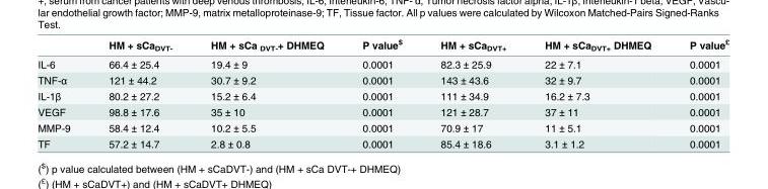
<table><thead><tr><td></td><td>HM + sCa<sub>DVT-</sub></td><td>HM + sCa <sub>DVT-</sub>+ DHMEQ</td><td>P value<sup>$</sup></td><td>HM + sCa<sub>DVT+</sub></td><td>HM + sCa<sub>DVT+</sub> DHMEQ</td><td>P value<sup>£</sup></td></tr></thead><tbody><tr><td>IL-6</td><td>66.4 ± 25.4</td><td>19.4 ± 9</td><td>0.0001</td><td>82.3 ± 25.9</td><td>22 ± 7.1</td><td>0.0001</td></tr><tr><td>TNF-α</td><td>121 ± 44.2</td><td>30.7 ± 9.2</td><td>0.0001</td><td>143 ± 43.6</td><td>32 ± 9.7</td><td>0.0001</td></tr><tr><td>IL-1β</td><td>80.2 ± 27.2</td><td>15.2 ± 6.4</td><td>0.0001</td><td>111 ± 34.9</td><td>16.2 ± 7.3</td><td>0.0001</td></tr><tr><td>VEGF</td><td>98.8 ± 17.6</td><td>35 ± 10</td><td>0.0001</td><td>121 ± 28.7</td><td>37 ± 11</td><td>0.0001</td></tr><tr><td>MMP-9</td><td>58.4 ± 12.4</td><td>10.2 ± 5.5</td><td>0.0001</td><td>70.9 ± 17</td><td>11 ± 5.1</td><td>0.0001</td></tr><tr><td>TF</td><td>57.2 ± 14.7</td><td>2.8 ± 0.8</td><td>0.0001</td><td>85.4 ± 18.6</td><td>3.1 ± 1.2</td><td>0.0001</td></tr></tbody></table>